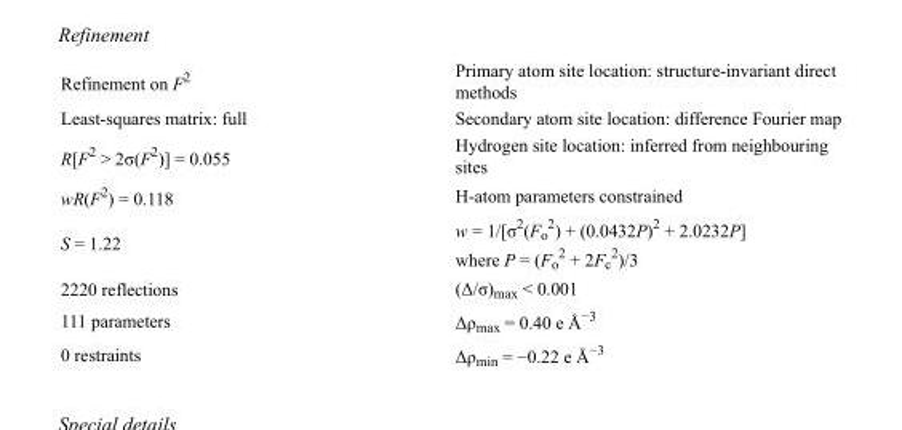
<table><tbody><tr><td>Refinement on F<sup>2</sup></td><td>Primary atom site location: structure-invariant direct methods</td></tr><tr><td>Least-squares matrix: full</td><td>Secondary atom site location: difference Fourier map</td></tr><tr><td>R[F<sup>2</sup> &gt; 2σ(F<sup>2</sup>)] = 0.055</td><td>Hydrogen site location: inferred from neighbouring sites</td></tr><tr><td>wR(F<sup>2</sup>) = 0.118</td><td>H-atom parameters constrained</td></tr><tr><td>S = 1.22</td><td>w = 1/[σ<sup>2</sup>(F<sub>o</sub> <sup>2</sup>) + (0.0432P)<sup>2</sup> + 2.0232P] where P = (F<sub>o</sub> <sup>2</sup> + 2F<sub>c</sub> <sup>2</sup>)/3</td></tr><tr><td>2220 reflections</td><td>(Δ/σ)<sub>max</sub> &lt; 0.001</td></tr><tr><td>111 parameters</td><td>Δρ<sub>max</sub> = 0.40 e Å<sup>−3</sup></td></tr><tr><td>0 restraints</td><td>Δρ<sub>min</sub> = −0.22 e Å<sup>−3</sup></td></tr></tbody></table>